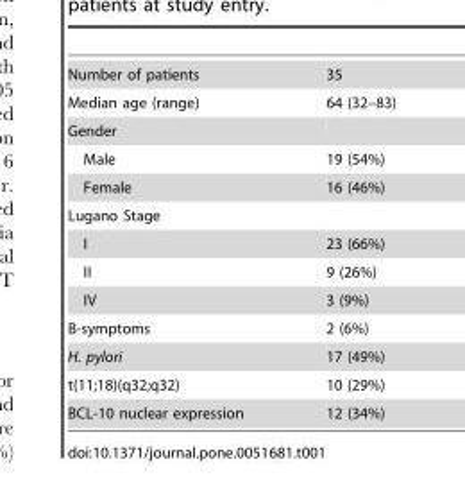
<table><tbody><tr><td>Number of patients</td><td>35</td></tr><tr><td>Median age (range)</td><td>64 (32–83)</td></tr><tr><td colspan="2">Gender</td></tr><tr><td>Male</td><td>19 (54%)</td></tr><tr><td>Female</td><td>16 (46%)</td></tr><tr><td colspan="2">Lugano Stage</td></tr><tr><td>I</td><td>23 (66%)</td></tr><tr><td>II</td><td>9 (26%)</td></tr><tr><td>IV</td><td>3 (9%)</td></tr><tr><td>B-symptoms</td><td>2 (6%)</td></tr><tr><td>H. pylori</td><td>17 (49%)</td></tr><tr><td>t(11;18)(q32;q32)</td><td>10 (29%)</td></tr><tr><td>BCL-10 nuclear expression</td><td>12 (34%)</td></tr></tbody></table>